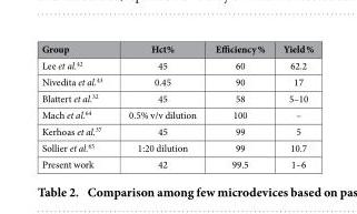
<table><thead><tr><td>Group</td><td>Hct%</td><td>Efficiency %</td><td>Yield %</td></tr></thead><tbody><tr><td>Lee et al.<sup>42</sup></td><td>45</td><td>60</td><td>62.2</td></tr><tr><td>Nivedita et al.<sup>43</sup></td><td>0.45</td><td>90</td><td>17</td></tr><tr><td>Blattert et al.<sup>32</sup></td><td>45</td><td>58</td><td>5–10</td></tr><tr><td>Mach et al.<sup>64</sup></td><td>0.5% v/v dilution</td><td>100</td><td>–</td></tr><tr><td>Kerhoas et al.<sup>37</sup></td><td>45</td><td>99</td><td>5</td></tr><tr><td>Sollier et al.<sup>65</sup></td><td>1:20 dilution</td><td>99</td><td>10.7</td></tr><tr><td>Present work</td><td>42</td><td>99.5</td><td>1–6</td></tr></tbody></table>